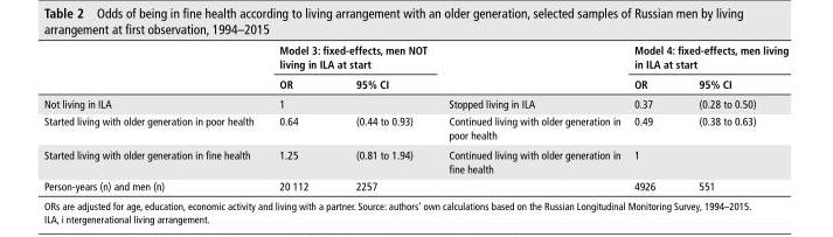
<table><thead><tr><td rowspan="2"></td><td colspan="2">Model 3: fixed-effects, men noT living in IlA at start</td><td rowspan="2"></td><td colspan="2">Model 4: fixed-effects, men living in IlA at start</td></tr><tr><td>or</td><td>95% CI</td><td>or</td><td>95% CI</td></tr></thead><tbody><tr><td>Not living in ILA</td><td>1</td><td></td><td>Stopped living in ILA</td><td>0.37</td><td>(0.28 to 0.50)</td></tr><tr><td>Started living with older generation in poor health</td><td>0.64</td><td>(0.44 to 0.93)</td><td>Continued living with older generation in poor health</td><td>0.49</td><td>(0.38 to 0.63)</td></tr><tr><td>Started living with older generation in fine health</td><td>1.25</td><td>(0.81 to 1.94)</td><td>Continued living with older generation in fine health</td><td>1</td><td></td></tr><tr><td>Person-years (n) and men (n)</td><td>20 112</td><td>2257</td><td></td><td>4926</td><td>551</td></tr></tbody></table>